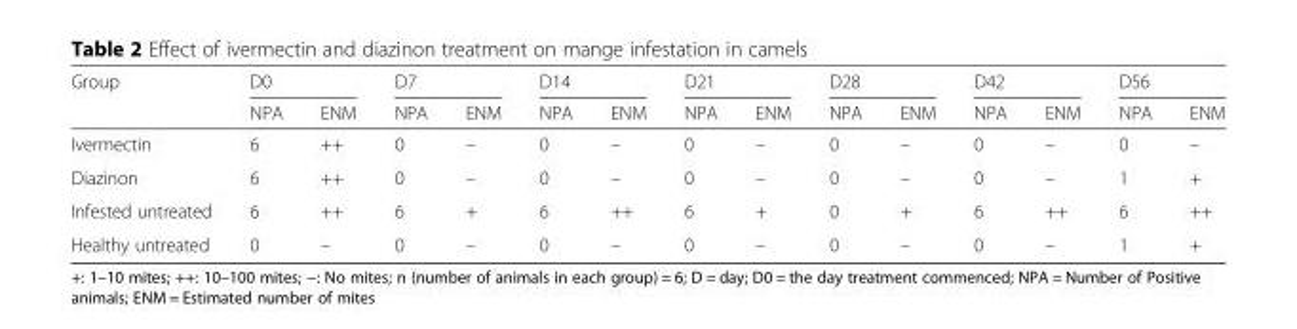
<table><thead><tr><td rowspan="2">Group</td><td colspan="2">D0</td><td colspan="2">D7</td><td colspan="2">D14</td><td colspan="2">D21</td><td colspan="2">D28</td><td colspan="2">D42</td><td colspan="2">D56</td></tr><tr><td>NPA</td><td>ENM</td><td>NPA</td><td>ENM</td><td>NPA</td><td>ENM</td><td>NPA</td><td>ENM</td><td>NPA</td><td>ENM</td><td>NPA</td><td>ENM</td><td>NPA</td><td>ENM</td></tr></thead><tbody><tr><td>Ivermectin</td><td>6</td><td>++</td><td>0</td><td>–</td><td>0</td><td>–</td><td>0</td><td>–</td><td>0</td><td>–</td><td>0</td><td>–</td><td>0</td><td>–</td></tr><tr><td>Diazinon</td><td>6</td><td>++</td><td>0</td><td>–</td><td>0</td><td>–</td><td>0</td><td>–</td><td>0</td><td>–</td><td>0</td><td>–</td><td>1</td><td>+</td></tr><tr><td>Infested untreated</td><td>6</td><td>++</td><td>6</td><td>+</td><td>6</td><td>++</td><td>6</td><td>+</td><td>0</td><td>+</td><td>6</td><td>++</td><td>6</td><td>++</td></tr><tr><td>Healthy untreated</td><td>0</td><td>–</td><td>0</td><td>–</td><td>0</td><td>–</td><td>0</td><td>–</td><td>0</td><td>–</td><td>0</td><td>–</td><td>1</td><td>+</td></tr></tbody></table>